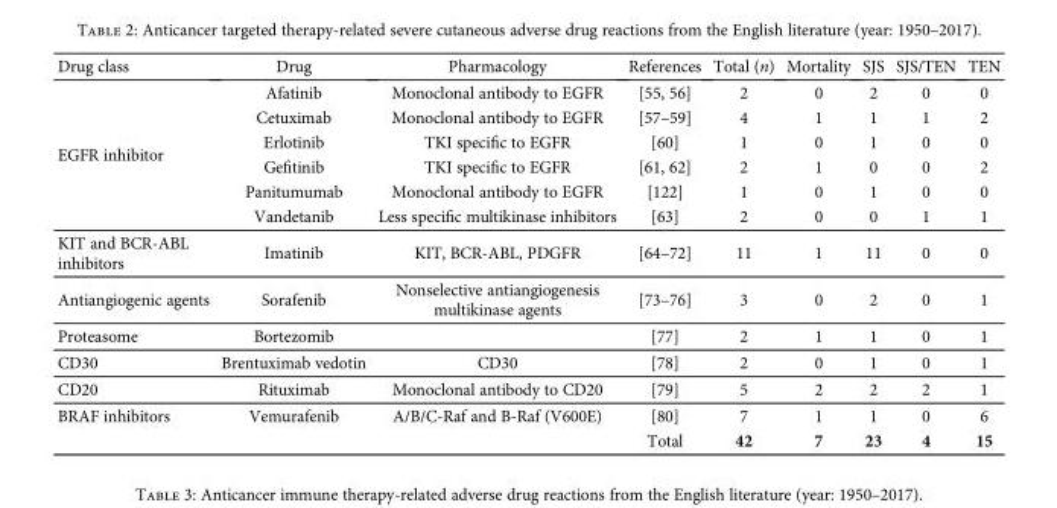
<table><thead><tr><td>Drug class</td><td>Drug</td><td>Pharmacology</td><td>References</td><td>Total (n)</td><td>Mortality</td><td>SJS</td><td>SJS/TEN</td><td>TEN</td></tr></thead><tbody><tr><td rowspan="6">EGFR inhibitor</td><td>Afatinib</td><td>Monoclonal antibody to EGFR</td><td>[55, 56]</td><td>2</td><td>0</td><td>2</td><td>0</td><td>0</td></tr><tr><td>Cetuximab</td><td>Monoclonal antibody to EGFR</td><td>[57–59]</td><td>4</td><td>1</td><td>1</td><td>1</td><td>2</td></tr><tr><td>Erlotinib</td><td>TKI specific to EGFR</td><td>[60]</td><td>1</td><td>0</td><td>1</td><td>0</td><td>0</td></tr><tr><td>Gefitinib</td><td>TKI specific to EGFR</td><td>[61, 62]</td><td>2</td><td>1</td><td>0</td><td>0</td><td>2</td></tr><tr><td>Panitumumab</td><td>Monoclonal antibody to EGFR</td><td>[122]</td><td>1</td><td>0</td><td>1</td><td>0</td><td>0</td></tr><tr><td>Vandetanib</td><td>Less specific multikinase inhibitors</td><td>[63]</td><td>2</td><td>0</td><td>0</td><td>1</td><td>1</td></tr><tr><td>KIT and BCR-ABL inhibitors</td><td>Imatinib</td><td>KIT, BCR-ABL, PDGFR</td><td>[64–72]</td><td>11</td><td>1</td><td>11</td><td>0</td><td>0</td></tr><tr><td>Antiangiogenic agents</td><td>Sorafenib</td><td>Nonselective antiangiogenesis multikinase agents</td><td>[73–76]</td><td>3</td><td>0</td><td>2</td><td>0</td><td>1</td></tr><tr><td>Proteasome</td><td>Bortezomib</td><td></td><td>[77]</td><td>2</td><td>1</td><td>1</td><td>0</td><td>1</td></tr><tr><td>CD30</td><td>Brentuximab vedotin</td><td>CD30</td><td>[78]</td><td>2</td><td>0</td><td>1</td><td>0</td><td>1</td></tr><tr><td>CD20</td><td>Rituximab</td><td>Monoclonal antibody to CD20</td><td>[79]</td><td>5</td><td>2</td><td>2</td><td>2</td><td>1</td></tr><tr><td rowspan="2">BRAF inhibitors</td><td>Vemurafenib</td><td>A/B/C-Raf and B-Raf (V600E)</td><td>[80]</td><td>7</td><td>1</td><td>1</td><td>0</td><td>6</td></tr><tr><td></td><td></td><td>Total</td><td>42</td><td>7</td><td>23</td><td>4</td><td>15</td></tr></tbody></table>